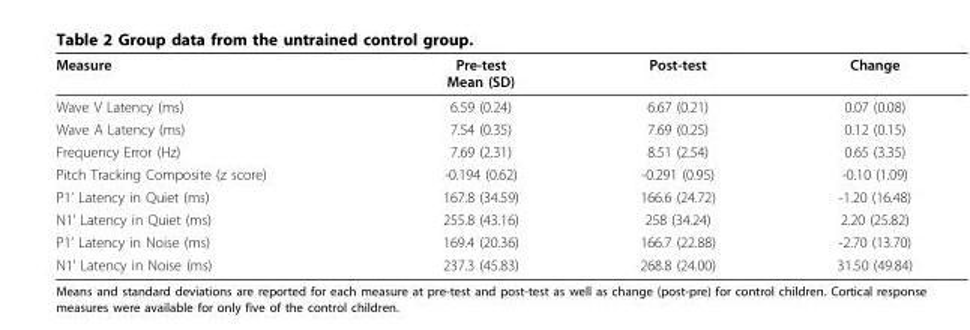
<table><thead><tr><td>Measure</td><td>Pre-test Mean (SD)</td><td>Post-test</td><td>Change</td></tr></thead><tbody><tr><td>Wave V Latency (ms)</td><td>6.59 (0.24)</td><td>6.67 (0.21)</td><td>0.07 (0.08)</td></tr><tr><td>Wave A Latency (ms)</td><td>7.54 (0.35)</td><td>7.69 (0.25)</td><td>0.12 (0.15)</td></tr><tr><td>Frequency Error (Hz)</td><td>7.69 (2.31)</td><td>8.51 (2.54)</td><td>0.65 (3.35)</td></tr><tr><td>Pitch Tracking Composite (z score)</td><td>-0.194 (0.62)</td><td>-0.291 (0.95)</td><td>-0.10 (1.09)</td></tr><tr><td>P1’ Latency in Quiet (ms)</td><td>167.8 (34.59)</td><td>166.6 (24.72)</td><td>-1.20 (16.48)</td></tr><tr><td>N1’ Latency in Quiet (ms)</td><td>255.8 (43.16)</td><td>258 (34.24)</td><td>2.20 (25.82)</td></tr><tr><td>P1’ Latency in Noise (ms)</td><td>169.4 (20.36)</td><td>166.7 (22.88)</td><td>-2.70 (13.70)</td></tr><tr><td>N1’ Latency in Noise (ms)</td><td>237.3 (45.83)</td><td>268.8 (24.00)</td><td>31.50 (49.84)</td></tr></tbody></table>